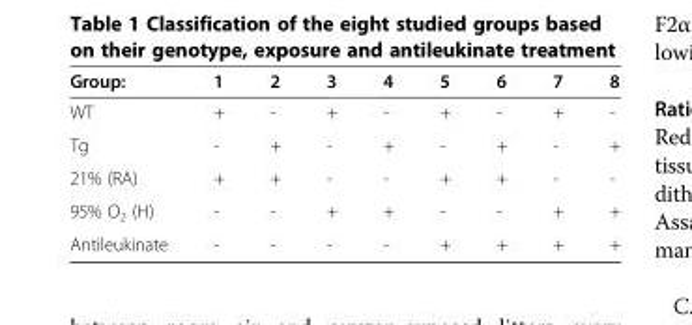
<table><thead><tr><td>Group:</td><td>1</td><td>2</td><td>3</td><td>4</td><td>5</td><td>6</td><td>7</td><td>8</td></tr></thead><tbody><tr><td>WT</td><td>+</td><td>-</td><td>+</td><td>-</td><td>+</td><td>-</td><td>+</td><td>-</td></tr><tr><td>Tg</td><td>-</td><td>+</td><td>-</td><td>+</td><td>-</td><td>+</td><td>-</td><td>+</td></tr><tr><td>21% (RA)</td><td>+</td><td>+</td><td>-</td><td>-</td><td>+</td><td>+</td><td>-</td><td>-</td></tr><tr><td>95% O<sub>2</sub> (H)</td><td>-</td><td>-</td><td>+</td><td>+</td><td>-</td><td>-</td><td>+</td><td>+</td></tr><tr><td>Antileukinate</td><td>-</td><td>-</td><td>-</td><td>-</td><td>+</td><td>+</td><td>+</td><td>+</td></tr></tbody></table>